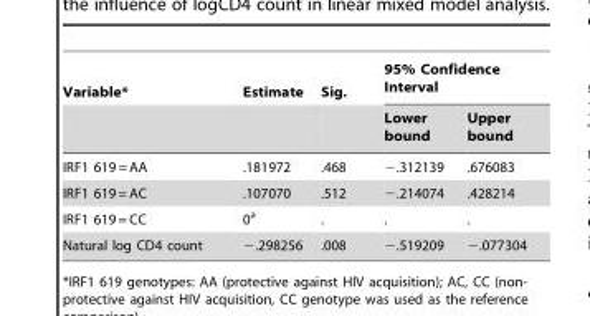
<table><thead><tr><td rowspan="2">Variable*</td><td rowspan="2">Estimate</td><td rowspan="2">Sig.</td><td colspan="2">95% Confidence Interval</td></tr><tr><td>Lower bound</td><td>Upper bound</td></tr></thead><tbody><tr><td>IRF1 619 = AA</td><td>.181972</td><td>.468</td><td>−.312139</td><td>.676083</td></tr><tr><td>IRF1 619 = AC</td><td>.107070</td><td>.512</td><td>−.214074</td><td>.428214</td></tr><tr><td>IRF1 619 = CC</td><td>0<sup>a</sup></td><td>.</td><td>.</td><td>.</td></tr><tr><td>Natural log CD4 count</td><td>−.298256</td><td>.008</td><td>−.519209</td><td>−.077304</td></tr></tbody></table>